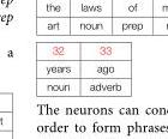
<table><tbody><tr><td>32</td><td>33</td></tr><tr><td>years</td><td>ago</td></tr><tr><td>noun</td><td>adverb</td></tr></tbody></table>